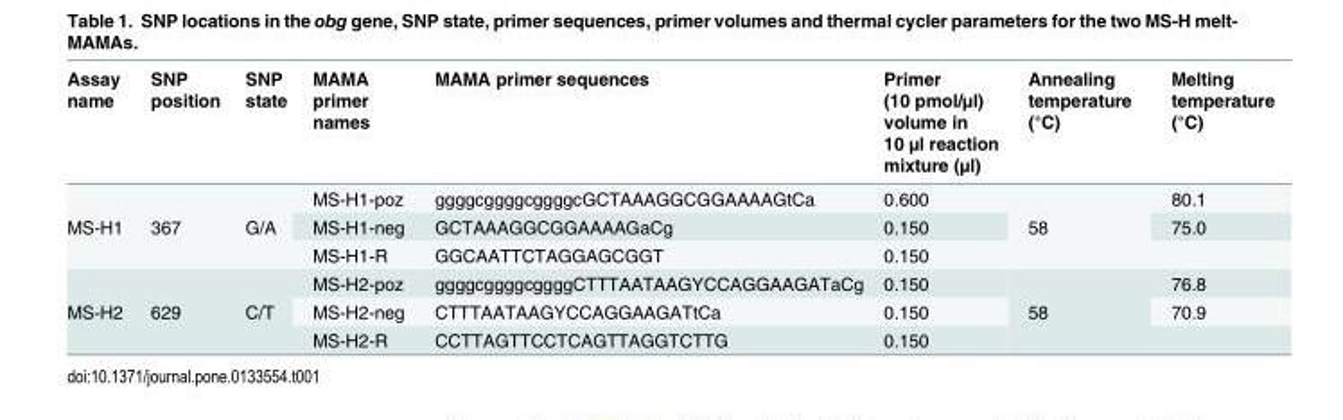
<table><thead><tr><td>Assay name</td><td>SNP position</td><td>SNP state</td><td>MAMA primer names</td><td>MAMA primer sequences</td><td>Primer (10 pmol/µl) volume in 10 µl reaction mixture (µl)</td><td>Annealing temperature (°C)</td><td>Melting temperature (°C)</td></tr></thead><tbody><tr><td rowspan="3">MS-H1</td><td rowspan="3">367</td><td rowspan="3">G/A</td><td>MS-H1-poz</td><td>ggggcggggcggggcGCTAAAGGCGGAAAAGtCa</td><td>0.600</td><td rowspan="3">58</td><td>80.1</td></tr><tr><td>MS-H1-neg</td><td>GCTAAAGGCGGAAAAGaCg</td><td>0.150</td><td>75.0</td></tr><tr><td>MS-H1-R</td><td>GGCAATTCTAGGAGCGGT</td><td>0.150</td><td></td></tr><tr><td rowspan="3">MS-H2</td><td rowspan="3">629</td><td rowspan="3">C/T</td><td>MS-H2-poz</td><td>ggggcggggcggggCTTTAATAAGYCCAGGAAGATaCg</td><td>0.150</td><td rowspan="3">58</td><td>76.8</td></tr><tr><td>MS-H2-neg</td><td>CTTTAATAAGYCCAGGAAGATtCa</td><td>0.150</td><td>70.9</td></tr><tr><td>MS-H2-R</td><td>CCTTAGTTCCTCAGTTAGGTCTTG</td><td>0.150</td><td></td></tr></tbody></table>